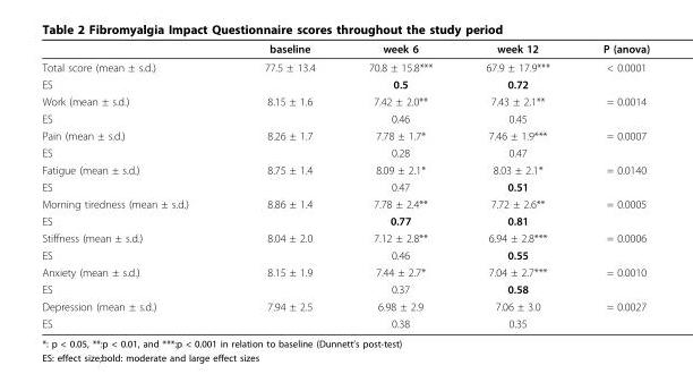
<table><thead><tr><td></td><td>baseline</td><td>week 6</td><td>week 12</td><td>P (anova)</td></tr></thead><tbody><tr><td>Total score (mean ± s.d.)</td><td>77.5 ± 13.4</td><td>70.8 ± 15.8***</td><td>67.9 ± 17.9***</td><td>&lt; 0.0001</td></tr><tr><td>ES</td><td></td><td>0.5</td><td>0.72</td><td></td></tr><tr><td>Work (mean ± s.d.)</td><td>8.15 ± 1.6</td><td>7.42 ± 2.0**</td><td>7.43 ± 2.1**</td><td>= 0.0014</td></tr><tr><td>ES</td><td></td><td>0.46</td><td>0.45</td><td></td></tr><tr><td>Pain (mean ± s.d.)</td><td>8.26 ± 1.7</td><td>7.78 ± 1.7*</td><td>7.46 ± 1.9***</td><td>= 0.0007</td></tr><tr><td>ES</td><td></td><td>0.28</td><td>0.47</td><td></td></tr><tr><td>Fatigue (mean ± s.d.)</td><td>8.75 ± 1.4</td><td>8.09 ± 2.1*</td><td>8.03 ± 2.1*</td><td>= 0.0140</td></tr><tr><td>ES</td><td></td><td>0.47</td><td>0.51</td><td></td></tr><tr><td>Morning tiredness (mean ± s.d.)</td><td>8.86 ± 1.4</td><td>7.78 ± 2.4**</td><td>7.72 ± 2.6**</td><td>= 0.0005</td></tr><tr><td>ES</td><td></td><td>0.77</td><td>0.81</td><td></td></tr><tr><td>Stiffness (mean ± s.d.)</td><td>8.04 ± 2.0</td><td>7.12 ± 2.8**</td><td>6.94 ± 2.8***</td><td>= 0.0006</td></tr><tr><td>ES</td><td></td><td>0.46</td><td>0.55</td><td></td></tr><tr><td>Anxiety (mean ± s.d.)</td><td>8.15 ± 1.9</td><td>7.44 ± 2.7*</td><td>7.04 ± 2.7***</td><td>= 0.0010</td></tr><tr><td>ES</td><td></td><td>0.37</td><td>0.58</td><td></td></tr><tr><td>Depression (mean ± s.d.)</td><td>7.94 ± 2.5</td><td>6.98 ± 2.9</td><td>7.06 ± 3.0</td><td>= 0.0027</td></tr><tr><td>ES</td><td></td><td>0.38</td><td>0.35</td><td></td></tr></tbody></table>